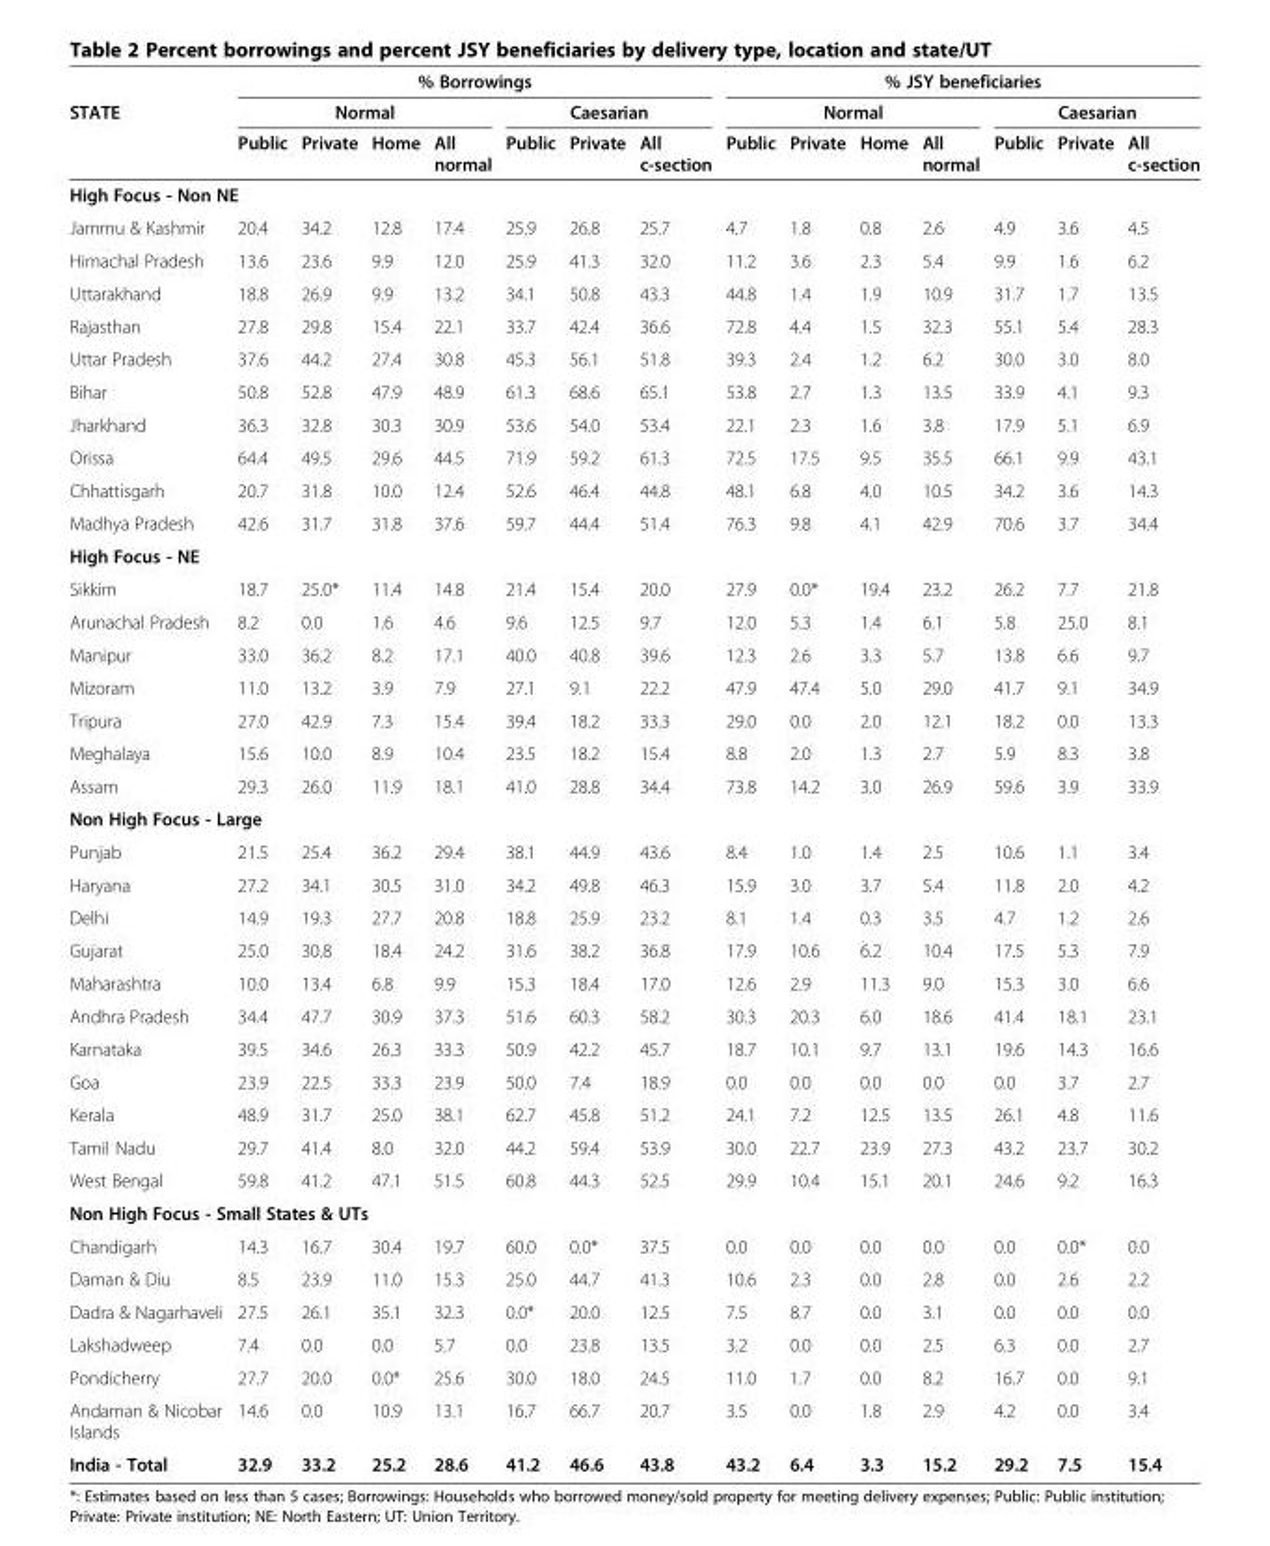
<table><thead><tr><td rowspan="3">STATE</td><td colspan="7">% Borrowings</td><td colspan="7">% JSY beneficiaries</td></tr><tr><td colspan="4">Normal</td><td colspan="3">Caesarian</td><td colspan="4">Normal</td><td colspan="3">Caesarian</td></tr><tr><td>Public</td><td>Private</td><td>Home</td><td>All normal</td><td>Public</td><td>Private</td><td>All c-section</td><td>Public</td><td>Private</td><td>Home</td><td>All normal</td><td>Public</td><td>Private</td><td>All c-section</td></tr></thead><tbody><tr><td colspan="15">High Focus - Non NE</td></tr><tr><td>Jammu &amp; Kashmir</td><td>20.4</td><td>34.2</td><td>12.8</td><td>17.4</td><td>25.9</td><td>26.8</td><td>25.7</td><td>4.7</td><td>1.8</td><td>0.8</td><td>2.6</td><td>4.9</td><td>3.6</td><td>4.5</td></tr><tr><td>Himachal Pradesh</td><td>13.6</td><td>23.6</td><td>9.9</td><td>12.0</td><td>25.9</td><td>41.3</td><td>32.0</td><td>11.2</td><td>3.6</td><td>2.3</td><td>5.4</td><td>9.9</td><td>1.6</td><td>6.2</td></tr><tr><td>Uttarakhand</td><td>18.8</td><td>26.9</td><td>9.9</td><td>13.2</td><td>34.1</td><td>50.8</td><td>43.3</td><td>44.8</td><td>1.4</td><td>1.9</td><td>10.9</td><td>31.7</td><td>1.7</td><td>13.5</td></tr><tr><td>Rajasthan</td><td>27.8</td><td>29.8</td><td>15.4</td><td>22.1</td><td>33.7</td><td>42.4</td><td>36.6</td><td>72.8</td><td>4.4</td><td>1.5</td><td>32.3</td><td>55.1</td><td>5.4</td><td>28.3</td></tr><tr><td>Uttar Pradesh</td><td>37.6</td><td>44.2</td><td>27.4</td><td>30.8</td><td>45.3</td><td>56.1</td><td>51.8</td><td>39.3</td><td>2.4</td><td>1.2</td><td>6.2</td><td>30.0</td><td>3.0</td><td>8.0</td></tr><tr><td>Bihar</td><td>50.8</td><td>52.8</td><td>47.9</td><td>48.9</td><td>61.3</td><td>68.6</td><td>65.1</td><td>53.8</td><td>2.7</td><td>1.3</td><td>13.5</td><td>33.9</td><td>4.1</td><td>9.3</td></tr><tr><td>Jharkhand</td><td>36.3</td><td>32.8</td><td>30.3</td><td>30.9</td><td>53.6</td><td>54.0</td><td>53.4</td><td>22.1</td><td>2.3</td><td>1.6</td><td>3.8</td><td>17.9</td><td>5.1</td><td>6.9</td></tr><tr><td>Orissa</td><td>64.4</td><td>49.5</td><td>29.6</td><td>44.5</td><td>71.9</td><td>59.2</td><td>61.3</td><td>72.5</td><td>17.5</td><td>9.5</td><td>35.5</td><td>66.1</td><td>9.9</td><td>43.1</td></tr><tr><td>Chhattisgarh</td><td>20.7</td><td>31.8</td><td>10.0</td><td>12.4</td><td>52.6</td><td>46.4</td><td>44.8</td><td>48.1</td><td>6.8</td><td>4.0</td><td>10.5</td><td>34.2</td><td>3.6</td><td>14.3</td></tr><tr><td>Madhya Pradesh</td><td>42.6</td><td>31.7</td><td>31.8</td><td>37.6</td><td>59.7</td><td>44.4</td><td>51.4</td><td>76.3</td><td>9.8</td><td>4.1</td><td>42.9</td><td>70.6</td><td>3.7</td><td>34.4</td></tr><tr><td colspan="15">High Focus - NE</td></tr><tr><td>Sikkim</td><td>18.7</td><td>25.0*</td><td>11.4</td><td>14.8</td><td>21.4</td><td>15.4</td><td>20.0</td><td>27.9</td><td>0.0*</td><td>19.4</td><td>23.2</td><td>26.2</td><td>7.7</td><td>21.8</td></tr><tr><td>Arunachal Pradesh</td><td>8.2</td><td>0.0</td><td>1.6</td><td>4.6</td><td>9.6</td><td>12.5</td><td>9.7</td><td>12.0</td><td>5.3</td><td>1.4</td><td>6.1</td><td>5.8</td><td>25.0</td><td>8.1</td></tr><tr><td>Manipur</td><td>33.0</td><td>36.2</td><td>8.2</td><td>17.1</td><td>40.0</td><td>40.8</td><td>39.6</td><td>12.3</td><td>2.6</td><td>3.3</td><td>5.7</td><td>13.8</td><td>6.6</td><td>9.7</td></tr><tr><td>Mizoram</td><td>11.0</td><td>13.2</td><td>3.9</td><td>7.9</td><td>27.1</td><td>9.1</td><td>22.2</td><td>47.9</td><td>47.4</td><td>5.0</td><td>29.0</td><td>41.7</td><td>9.1</td><td>34.9</td></tr><tr><td>Tripura</td><td>27.0</td><td>42.9</td><td>7.3</td><td>15.4</td><td>39.4</td><td>18.2</td><td>33.3</td><td>29.0</td><td>0.0</td><td>2.0</td><td>12.1</td><td>18.2</td><td>0.0</td><td>13.3</td></tr><tr><td>Meghalaya</td><td>15.6</td><td>10.0</td><td>8.9</td><td>10.4</td><td>23.5</td><td>18.2</td><td>15.4</td><td>8.8</td><td>2.0</td><td>1.3</td><td>2.7</td><td>5.9</td><td>8.3</td><td>3.8</td></tr><tr><td>Assam</td><td>29.3</td><td>26.0</td><td>11.9</td><td>18.1</td><td>41.0</td><td>28.8</td><td>34.4</td><td>73.8</td><td>14.2</td><td>3.0</td><td>26.9</td><td>59.6</td><td>3.9</td><td>33.9</td></tr><tr><td colspan="15">Non High Focus - Large</td></tr><tr><td>Punjab</td><td>21.5</td><td>25.4</td><td>36.2</td><td>29.4</td><td>38.1</td><td>44.9</td><td>43.6</td><td>8.4</td><td>1.0</td><td>1.4</td><td>2.5</td><td>10.6</td><td>1.1</td><td>3.4</td></tr><tr><td>Haryana</td><td>27.2</td><td>34.1</td><td>30.5</td><td>31.0</td><td>34.2</td><td>49.8</td><td>46.3</td><td>15.9</td><td>3.0</td><td>3.7</td><td>5.4</td><td>11.8</td><td>2.0</td><td>4.2</td></tr><tr><td>Delhi</td><td>14.9</td><td>19.3</td><td>27.7</td><td>20.8</td><td>18.8</td><td>25.9</td><td>23.2</td><td>8.1</td><td>1.4</td><td>0.3</td><td>3.5</td><td>4.7</td><td>1.2</td><td>2.6</td></tr><tr><td>Gujarat</td><td>25.0</td><td>30.8</td><td>18.4</td><td>24.2</td><td>31.6</td><td>38.2</td><td>36.8</td><td>17.9</td><td>10.6</td><td>6.2</td><td>10.4</td><td>17.5</td><td>5.3</td><td>7.9</td></tr><tr><td>Maharashtra</td><td>10.0</td><td>13.4</td><td>6.8</td><td>9.9</td><td>15.3</td><td>18.4</td><td>17.0</td><td>12.6</td><td>2.9</td><td>11.3</td><td>9.0</td><td>15.3</td><td>3.0</td><td>6.6</td></tr><tr><td>Andhra Pradesh</td><td>34.4</td><td>47.7</td><td>30.9</td><td>37.3</td><td>51.6</td><td>60.3</td><td>58.2</td><td>30.3</td><td>20.3</td><td>6.0</td><td>18.6</td><td>41.4</td><td>18.1</td><td>23.1</td></tr><tr><td>Karnataka</td><td>39.5</td><td>34.6</td><td>26.3</td><td>33.3</td><td>50.9</td><td>42.2</td><td>45.7</td><td>18.7</td><td>10.1</td><td>9.7</td><td>13.1</td><td>19.6</td><td>14.3</td><td>16.6</td></tr><tr><td>Goa</td><td>23.9</td><td>22.5</td><td>33.3</td><td>23.9</td><td>50.0</td><td>7.4</td><td>18.9</td><td>0.0</td><td>0.0</td><td>0.0</td><td>0.0</td><td>0.0</td><td>3.7</td><td>2.7</td></tr><tr><td>Kerala</td><td>48.9</td><td>31.7</td><td>25.0</td><td>38.1</td><td>62.7</td><td>45.8</td><td>51.2</td><td>24.1</td><td>7.2</td><td>12.5</td><td>13.5</td><td>26.1</td><td>4.8</td><td>11.6</td></tr><tr><td>Tamil Nadu</td><td>29.7</td><td>41.4</td><td>8.0</td><td>32.0</td><td>44.2</td><td>59.4</td><td>53.9</td><td>30.0</td><td>22.7</td><td>23.9</td><td>27.3</td><td>43.2</td><td>23.7</td><td>30.2</td></tr><tr><td>West Bengal</td><td>59.8</td><td>41.2</td><td>47.1</td><td>51.5</td><td>60.8</td><td>44.3</td><td>52.5</td><td>29.9</td><td>10.4</td><td>15.1</td><td>20.1</td><td>24.6</td><td>9.2</td><td>16.3</td></tr><tr><td colspan="15">Non High Focus - Small States &amp; UTs</td></tr><tr><td>Chandigarh</td><td>14.3</td><td>16.7</td><td>30.4</td><td>19.7</td><td>60.0</td><td>0.0*</td><td>37.5</td><td>0.0</td><td>0.0</td><td>0.0</td><td>0.0</td><td>0.0</td><td>0.0*</td><td>0.0</td></tr><tr><td>Daman &amp; Diu</td><td>8.5</td><td>23.9</td><td>11.0</td><td>15.3</td><td>25.0</td><td>44.7</td><td>41.3</td><td>10.6</td><td>2.3</td><td>0.0</td><td>2.8</td><td>0.0</td><td>2.6</td><td>2.2</td></tr><tr><td>Dadra &amp; Nagarhaveli</td><td>27.5</td><td>26.1</td><td>35.1</td><td>32.3</td><td>0.0*</td><td>20.0</td><td>12.5</td><td>7.5</td><td>8.7</td><td>0.0</td><td>3.1</td><td>0.0</td><td>0.0</td><td>0.0</td></tr><tr><td>Lakshadweep</td><td>7.4</td><td>0.0</td><td>0.0</td><td>5.7</td><td>0.0</td><td>23.8</td><td>13.5</td><td>3.2</td><td>0.0</td><td>0.0</td><td>2.5</td><td>6.3</td><td>0.0</td><td>2.7</td></tr><tr><td>Pondicherry</td><td>27.7</td><td>20.0</td><td>0.0*</td><td>25.6</td><td>30.0</td><td>18.0</td><td>24.5</td><td>11.0</td><td>1.7</td><td>0.0</td><td>8.2</td><td>16.7</td><td>0.0</td><td>9.1</td></tr><tr><td>Andaman &amp; Nicobar Islands</td><td>14.6</td><td>0.0</td><td>10.9</td><td>13.1</td><td>16.7</td><td>66.7</td><td>20.7</td><td>3.5</td><td>0.0</td><td>1.8</td><td>2.9</td><td>4.2</td><td>0.0</td><td>3.4</td></tr><tr><td>India - Total</td><td>32.9</td><td>33.2</td><td>25.2</td><td>28.6</td><td>41.2</td><td>46.6</td><td>43.8</td><td>43.2</td><td>6.4</td><td>3.3</td><td>15.2</td><td>29.2</td><td>7.5</td><td>15.4</td></tr></tbody></table>